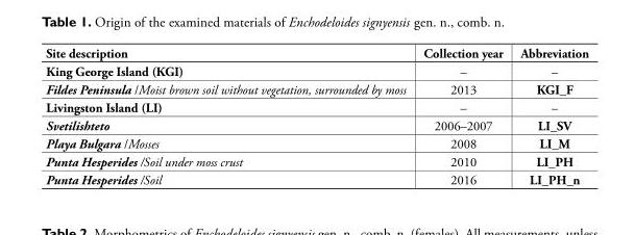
<table><thead><tr><td>Site description</td><td>Collection year</td><td>Abbreviation</td></tr></thead><tbody><tr><td>King George Island (KGI)</td><td>–</td><td>–</td></tr><tr><td>Fildes Peninsula /Moist brown soil without vegetation, surrounded by moss</td><td>2013</td><td>KGI_F</td></tr><tr><td>Livingston Island (LI)</td><td>–</td><td>–</td></tr><tr><td>Svetilishteto</td><td>2006–2007</td><td>LI_SV</td></tr><tr><td>Playa Bulgara /Mosses</td><td>2008</td><td>LI_M</td></tr><tr><td>Punta Hesperides /Soil under moss crust</td><td>2010</td><td>LI_PH</td></tr><tr><td>Punta Hesperides /Soil</td><td>2016</td><td>LI_PH_n</td></tr></tbody></table>